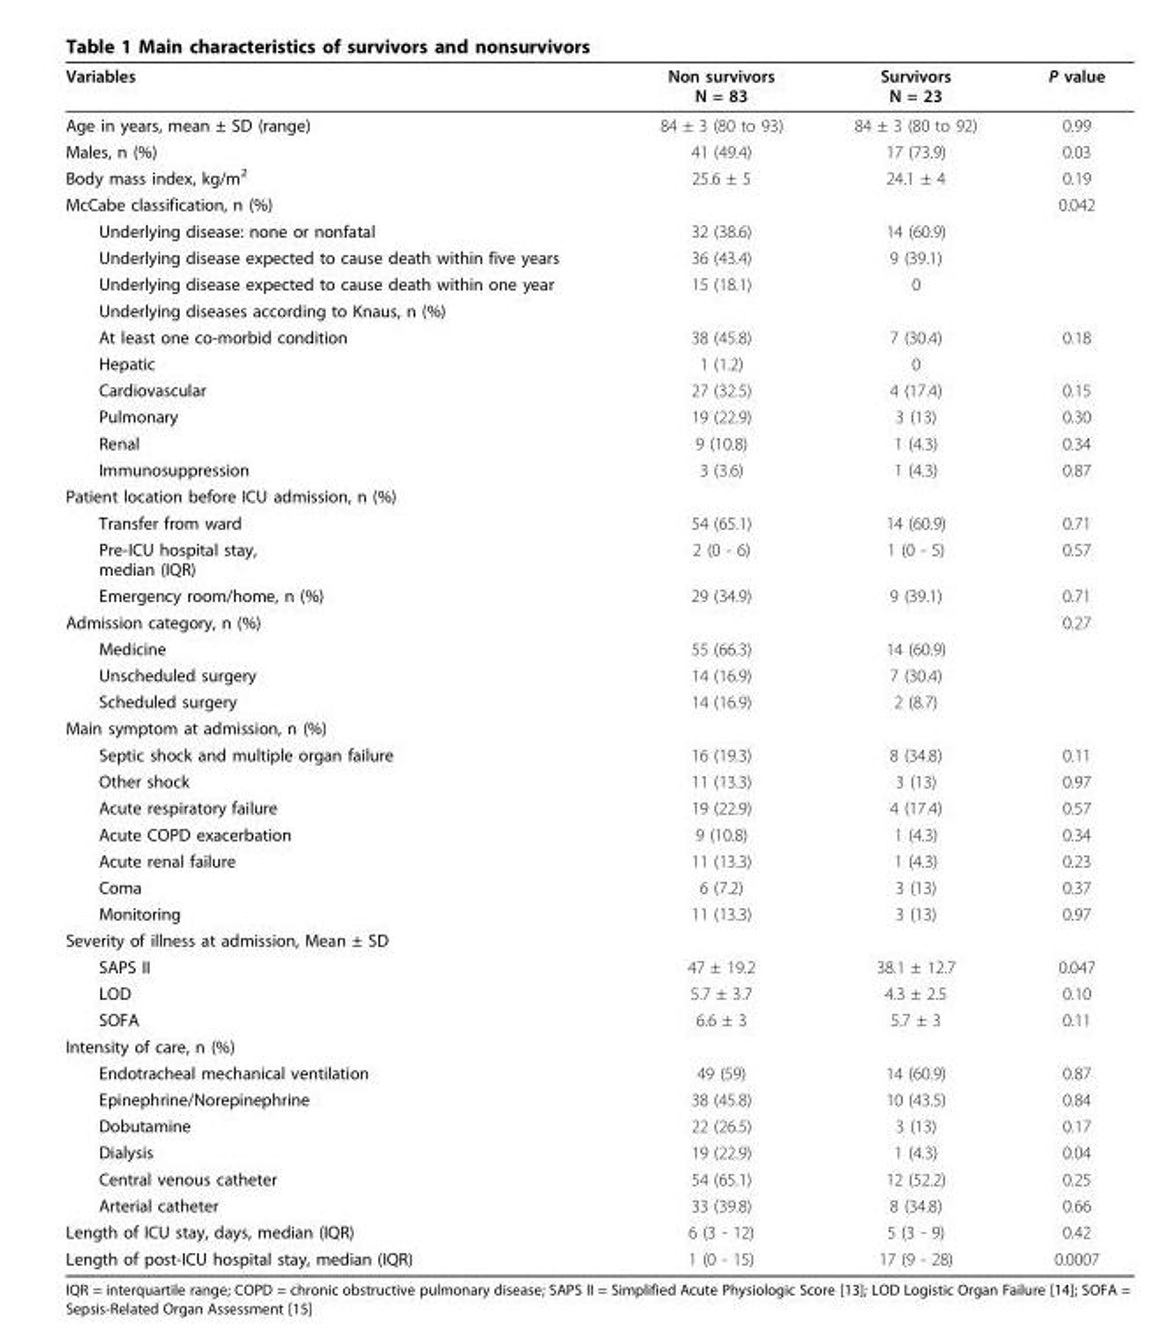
<table><thead><tr><td>Variables</td><td>Non survivors N = 83</td><td>Survivors N = 23</td><td>P value</td></tr></thead><tbody><tr><td>Age in years, mean ± SD (range)</td><td>84 ± 3 (80 to 93)</td><td>84 ± 3 (80 to 92)</td><td>0.99</td></tr><tr><td>Males, n (%)</td><td>41 (49.4)</td><td>17 (73.9)</td><td>0.03</td></tr><tr><td>Body mass index, kg/m<sup>2</sup></td><td>25.6 ± 5</td><td>24.1 ± 4</td><td>0.19</td></tr><tr><td>McCabe classification, n (%)</td><td></td><td></td><td>0.042</td></tr><tr><td>Underlying disease: none or nonfatal</td><td>32 (38.6)</td><td>14 (60.9)</td><td></td></tr><tr><td>Underlying disease expected to cause death within five years</td><td>36 (43.4)</td><td>9 (39.1)</td><td></td></tr><tr><td>Underlying disease expected to cause death within one year</td><td>15 (18.1)</td><td>0</td><td></td></tr><tr><td colspan="4">Underlying diseases according to Knaus, n (%)</td></tr><tr><td>At least one co-morbid condition</td><td>38 (45.8)</td><td>7 (30.4)</td><td>0.18</td></tr><tr><td>Hepatic</td><td>1 (1.2)</td><td>0</td><td></td></tr><tr><td>Cardiovascular</td><td>27 (32.5)</td><td>4 (17.4)</td><td>0.15</td></tr><tr><td>Pulmonary</td><td>19 (22.9)</td><td>3 (13)</td><td>0.30</td></tr><tr><td>Renal</td><td>9 (10.8)</td><td>1 (4.3)</td><td>0.34</td></tr><tr><td>Immunosuppression</td><td>3 (3.6)</td><td>1 (4.3)</td><td>0.87</td></tr><tr><td colspan="4">Patient location before ICU admission, n (%)</td></tr><tr><td>Transfer from ward</td><td>54 (65.1)</td><td>14 (60.9)</td><td>0.71</td></tr><tr><td>Pre-ICU hospital stay, median (IQR)</td><td>2 (0 - 6)</td><td>1 (0 - 5)</td><td>0.57</td></tr><tr><td>Emergency room/home, n (%)</td><td>29 (34.9)</td><td>9 (39.1)</td><td>0.71</td></tr><tr><td>Admission category, n (%)</td><td></td><td></td><td>0.27</td></tr><tr><td>Medicine</td><td>55 (66.3)</td><td>14 (60.9)</td><td></td></tr><tr><td>Unscheduled surgery</td><td>14 (16.9)</td><td>7 (30.4)</td><td></td></tr><tr><td>Scheduled surgery</td><td>14 (16.9)</td><td>2 (8.7)</td><td></td></tr><tr><td colspan="4">Main symptom at admission, n (%)</td></tr><tr><td>Septic shock and multiple organ failure</td><td>16 (19.3)</td><td>8 (34.8)</td><td>0.11</td></tr><tr><td>Other shock</td><td>11 (13.3)</td><td>3 (13)</td><td>0.97</td></tr><tr><td>Acute respiratory failure</td><td>19 (22.9)</td><td>4 (17.4)</td><td>0.57</td></tr><tr><td>Acute COPD exacerbation</td><td>9 (10.8)</td><td>1 (4.3)</td><td>0.34</td></tr><tr><td>Acute renal failure</td><td>11 (13.3)</td><td>1 (4.3)</td><td>0.23</td></tr><tr><td>Coma</td><td>6 (7.2)</td><td>3 (13)</td><td>0.37</td></tr><tr><td>Monitoring</td><td>11 (13.3)</td><td>3 (13)</td><td>0.97</td></tr><tr><td colspan="4">Severity of illness at admission, Mean ± SD</td></tr><tr><td>SAPS II</td><td>47 ± 19.2</td><td>38.1 ± 12.7</td><td>0.047</td></tr><tr><td>LOD</td><td>5.7 ± 3.7</td><td>4.3 ± 2.5</td><td>0.10</td></tr><tr><td>SOFA</td><td>6.6 ± 3</td><td>5.7 ± 3</td><td>0.11</td></tr><tr><td colspan="4">Intensity of care, n (%)</td></tr><tr><td>Endotracheal mechanical ventilation</td><td>49 (59)</td><td>14 (60.9)</td><td>0.87</td></tr><tr><td>Epinephrine/Norepinephrine</td><td>38 (45.8)</td><td>10 (43.5)</td><td>0.84</td></tr><tr><td>Dobutamine</td><td>22 (26.5)</td><td>3 (13)</td><td>0.17</td></tr><tr><td>Dialysis</td><td>19 (22.9)</td><td>1 (4.3)</td><td>0.04</td></tr><tr><td>Central venous catheter</td><td>54 (65.1)</td><td>12 (52.2)</td><td>0.25</td></tr><tr><td>Arterial catheter</td><td>33 (39.8)</td><td>8 (34.8)</td><td>0.66</td></tr><tr><td>Length of ICU stay, days, median (IQR)</td><td>6 (3 - 12)</td><td>5 (3 - 9)</td><td>0.42</td></tr><tr><td>Length of post-ICU hospital stay, median (IQR)</td><td>1 (0 - 15)</td><td>17 (9 - 28)</td><td>0.0007</td></tr></tbody></table>